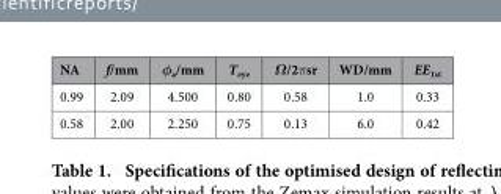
<table><thead><tr><td>NA</td><td>f/mm</td><td>φ<sub>a</sub>/mm</td><td>T<sub>eye</sub></td><td>Ω/2πsr</td><td>WD/mm</td><td>EE<sub>1st</sub></td></tr></thead><tbody><tr><td>0.99</td><td>2.09</td><td>4.500</td><td>0.80</td><td>0.58</td><td>1.0</td><td>0.33</td></tr><tr><td>0.58</td><td>2.00</td><td>2.250</td><td>0.75</td><td>0.13</td><td>6.0</td><td>0.42</td></tr></tbody></table>